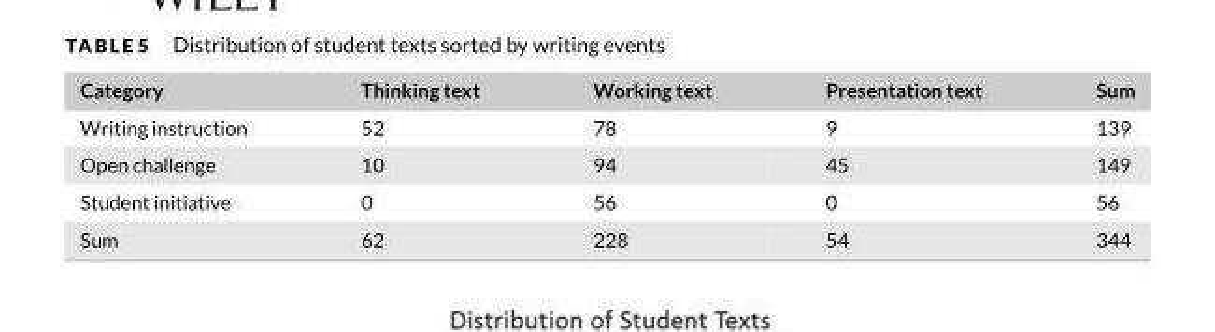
<table><thead><tr><td>Category</td><td>Thinking text</td><td>Working text</td><td>Presentation text</td><td>Sum</td></tr></thead><tbody><tr><td>Writing instruction</td><td>52</td><td>78</td><td>9</td><td>139</td></tr><tr><td>Open challenge</td><td>10</td><td>94</td><td>45</td><td>149</td></tr><tr><td>Student initiative</td><td>0</td><td>56</td><td>0</td><td>56</td></tr><tr><td>Sum</td><td>62</td><td>228</td><td>54</td><td>344</td></tr></tbody></table>